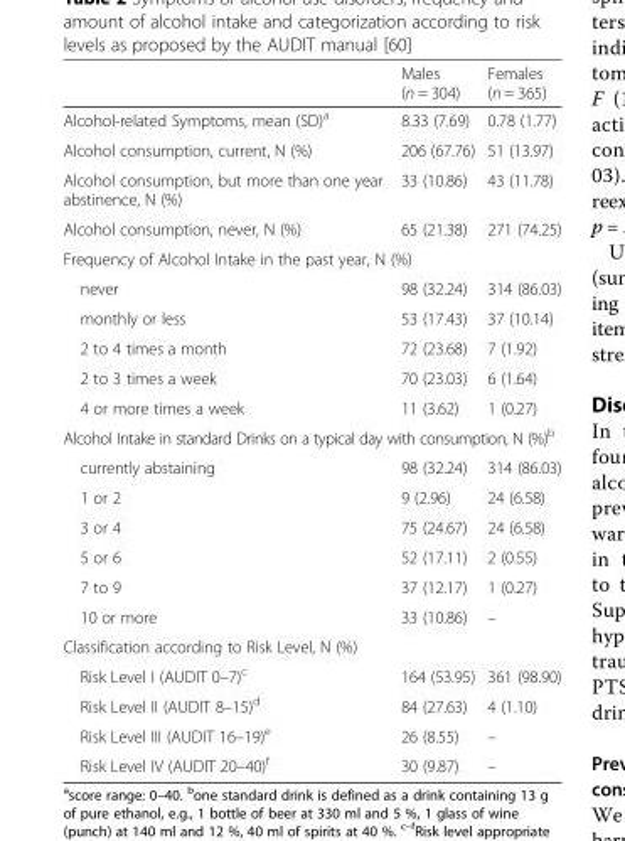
<table><thead><tr><td></td><td>Males (n = 304)</td><td>Females (n = 365)</td></tr></thead><tbody><tr><td>Alcohol-related Symptoms, mean (SD)<sup>a</sup></td><td>8.33 (7.69)</td><td>0.78 (1.77)</td></tr><tr><td>Alcohol consumption, current, N (%)</td><td>206 (67.76)</td><td>51 (13.97)</td></tr><tr><td>Alcohol consumption, but more than one year abstinence, N (%)</td><td>33 (10.86)</td><td>43 (11.78)</td></tr><tr><td>Alcohol consumption, never, N (%)</td><td>65 (21.38)</td><td>271 (74.25)</td></tr><tr><td colspan="3">Frequency of Alcohol Intake in the past year, N (%)</td></tr><tr><td>never</td><td>98 (32.24)</td><td>314 (86.03)</td></tr><tr><td>monthly or less</td><td>53 (17.43)</td><td>37 (10.14)</td></tr><tr><td>2 to 4 times a month</td><td>72 (23.68)</td><td>7 (1.92)</td></tr><tr><td>2 to 3 times a week</td><td>70 (23.03)</td><td>6 (1.64)</td></tr><tr><td>4 or more times a week</td><td>11 (3.62)</td><td>1 (0.27)</td></tr><tr><td colspan="3">Alcohol Intake in standard Drinks on a typical day with consumption, N (%)<sup>b</sup></td></tr><tr><td>currently abstaining</td><td>98 (32.24)</td><td>314 (86.03)</td></tr><tr><td>1 or 2</td><td>9 (2.96)</td><td>24 (6.58)</td></tr><tr><td>3 or 4</td><td>75 (24.67)</td><td>24 (6.58)</td></tr><tr><td>5 or 6</td><td>52 (17.11)</td><td>2 (0.55)</td></tr><tr><td>7 to 9</td><td>37 (12.17)</td><td>1 (0.27)</td></tr><tr><td>10 or more</td><td>33 (10.86)</td><td>–</td></tr><tr><td colspan="3">Classification according to Risk Level, N (%)</td></tr><tr><td>Risk Level I (AUDIT 0–7)<sup>c</sup></td><td>164 (53.95)</td><td>361 (98.90)</td></tr><tr><td>Risk Level II (AUDIT 8–15)<sup>d</sup></td><td>84 (27.63)</td><td>4 (1.10)</td></tr><tr><td>Risk Level III (AUDIT 16–19)<sup>e</sup></td><td>26 (8.55)</td><td>–</td></tr><tr><td>Risk Level IV (AUDIT 20–40)<sup>f</sup></td><td>30 (9.87)</td><td>–</td></tr></tbody></table>